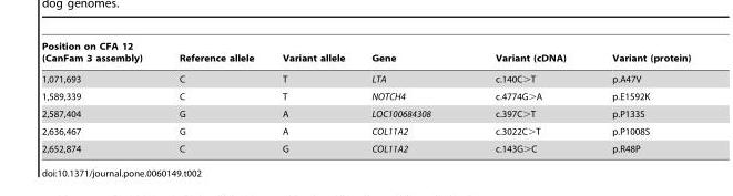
<table><thead><tr><td>Position on CFA 12 (CanFam 3 assembly)</td><td>Reference allele</td><td>Variant allele</td><td>Gene</td><td>Variant (cDNA)</td><td>Variant (protein)</td></tr></thead><tbody><tr><td>1,071,693</td><td>C</td><td>T</td><td>LTA</td><td>c.140C&gt;T</td><td>p.A47V</td></tr><tr><td>1,589,339</td><td>C</td><td>T</td><td>NOTCH4</td><td>c.4774G&gt;A</td><td>p.E1592K</td></tr><tr><td>2,587,404</td><td>G</td><td>A</td><td>LOC100684308</td><td>c.397C&gt;T</td><td>p.P133S</td></tr><tr><td>2,636,467</td><td>G</td><td>A</td><td>COL11A2</td><td>c.3022C&gt;T</td><td>p.P1008S</td></tr><tr><td>2,652,874</td><td>C</td><td>G</td><td>COL11A2</td><td>c.143G&gt;C</td><td>p.R48P</td></tr></tbody></table>